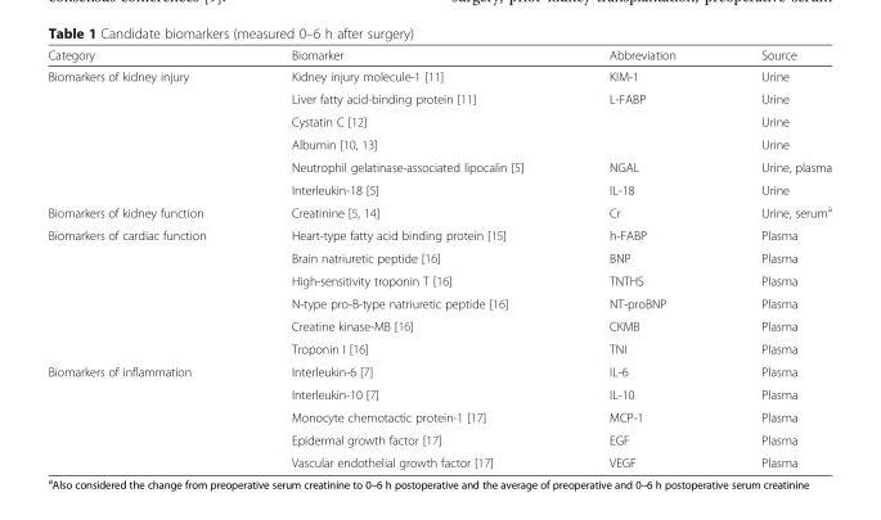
<table><thead><tr><td>Category</td><td>Biomarker</td><td>Abbreviation</td><td>Source</td></tr></thead><tbody><tr><td rowspan="6">Biomarkers of kidney injury</td><td>Kidney injury molecule-1 [11]</td><td>KIM-1</td><td>Urine</td></tr><tr><td>Liver fatty acid-binding protein [11]</td><td>L-FABP</td><td>Urine</td></tr><tr><td>Cystatin C [12]</td><td></td><td>Urine</td></tr><tr><td>Albumin [10, 13]</td><td></td><td>Urine</td></tr><tr><td>Neutrophil gelatinase-associated lipocalin [5]</td><td>NGAL</td><td>Urine, plasma</td></tr><tr><td>Interleukin-18 [5]</td><td>IL-18</td><td>Urine</td></tr><tr><td>Biomarkers of kidney function</td><td>Creatinine [5, 14]</td><td>Cr</td><td>Urine, serum<sup>a</sup></td></tr><tr><td rowspan="6">Biomarkers of cardiac function</td><td>Heart-type fatty acid binding protein [15]</td><td>h-FABP</td><td>Plasma</td></tr><tr><td>Brain natriuretic peptide [16]</td><td>BNP</td><td>Plasma</td></tr><tr><td>High-sensitivity troponin T [16]</td><td>TNTHS</td><td>Plasma</td></tr><tr><td>N-type pro-B-type natriuretic peptide [16]</td><td>NT-proBNP</td><td>Plasma</td></tr><tr><td>Creatine kinase-MB [16]</td><td>CKMB</td><td>Plasma</td></tr><tr><td>Troponin I [16]</td><td>TNI</td><td>Plasma</td></tr><tr><td rowspan="5">Biomarkers of inflammation</td><td>Interleukin-6 [7]</td><td>IL-6</td><td>Plasma</td></tr><tr><td>Interleukin-10 [7]</td><td>IL-10</td><td>Plasma</td></tr><tr><td>Monocyte chemotactic protein-1 [17]</td><td>MCP-1</td><td>Plasma</td></tr><tr><td>Epidermal growth factor [17]</td><td>EGF</td><td>Plasma</td></tr><tr><td>Vascular endothelial growth factor [17]</td><td>VEGF</td><td>Plasma</td></tr></tbody></table>